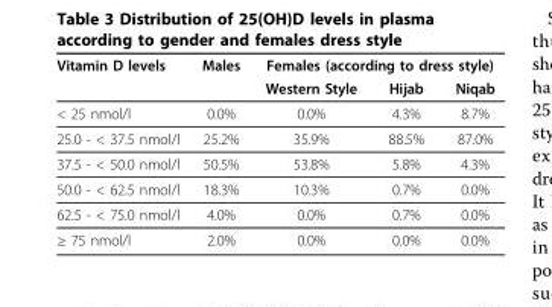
<table><thead><tr><td rowspan="2">Vitamin D levels</td><td rowspan="2">Males</td><td colspan="3">Females (according to dress style)</td></tr><tr><td>Western Style</td><td>Hijab</td><td>Niqab</td></tr></thead><tbody><tr><td>&lt; 25 nmol/l</td><td>0.0%</td><td>0.0%</td><td>4.3%</td><td>8.7%</td></tr><tr><td>25.0 - &lt; 37.5 nmol/l</td><td>25.2%</td><td>35.9%</td><td>88.5%</td><td>87.0%</td></tr><tr><td>37.5 - &lt; 50.0 nmol/l</td><td>50.5%</td><td>53.8%</td><td>5.8%</td><td>4.3%</td></tr><tr><td>50.0 - &lt; 62.5 nmol/l</td><td>18.3%</td><td>10.3%</td><td>0.7%</td><td>0.0%</td></tr><tr><td>62.5 - &lt; 75.0 nmol/l</td><td>4.0%</td><td>0.0%</td><td>0.7%</td><td>0.0%</td></tr><tr><td>≥ 75 nmol/l</td><td>2.0%</td><td>0.0%</td><td>0.0%</td><td>0.0%</td></tr></tbody></table>